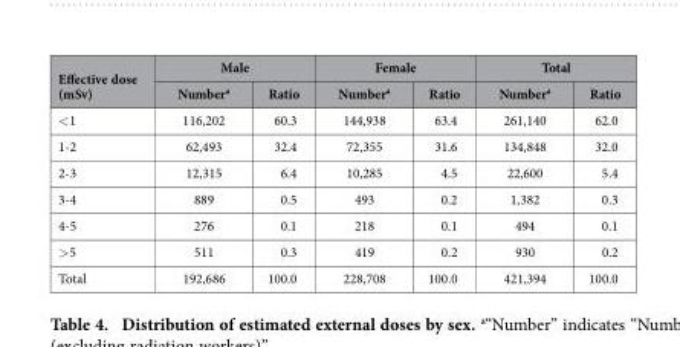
<table><thead><tr><td rowspan="2">Effective dose (mSv)</td><td colspan="2">Male</td><td colspan="2">Female</td><td colspan="2">Total</td></tr><tr><td>Number<sup>a</sup></td><td>Ratio</td><td>Number<sup>a</sup></td><td>Ratio</td><td>Number<sup>a</sup></td><td>Ratio</td></tr></thead><tbody><tr><td>&lt; 1</td><td>116,202</td><td>60.3</td><td>144,938</td><td>63.4</td><td>261,140</td><td>62.0</td></tr><tr><td>1-2</td><td>62,493</td><td>32.4</td><td>72,355</td><td>31.6</td><td>134,848</td><td>32.0</td></tr><tr><td>2-3</td><td>12,315</td><td>6.4</td><td>10,285</td><td>4.5</td><td>22,600</td><td>5.4</td></tr><tr><td>3-4</td><td>889</td><td>0.5</td><td>493</td><td>0.2</td><td>1,382</td><td>0.3</td></tr><tr><td>4-5</td><td>276</td><td>0.1</td><td>218</td><td>0.1</td><td>494</td><td>0.1</td></tr><tr><td>&gt; 5</td><td>511</td><td>0.3</td><td>419</td><td>0.2</td><td>930</td><td>0.2</td></tr><tr><td>Total</td><td>192,686</td><td>100.0</td><td>228,708</td><td>100.0</td><td>421,394</td><td>100.0</td></tr></tbody></table>